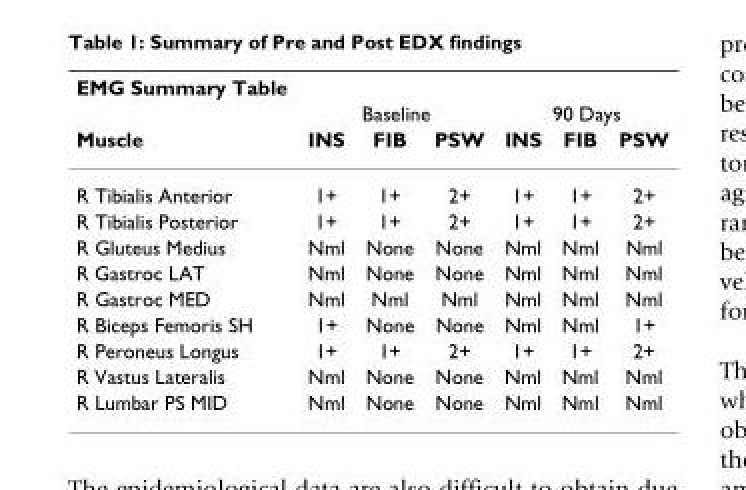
<table><thead><tr><td rowspan="3">EMG Summary Table Muscle</td><td></td><td></td><td></td><td></td><td></td><td></td></tr><tr><td colspan="3">Baseline</td><td colspan="3">90 Days</td></tr><tr><td>INS</td><td>FIB</td><td>PSW</td><td>INS</td><td>FIB</td><td>PSW</td></tr></thead><tbody><tr><td>R Tibialis Anterior</td><td>1+</td><td>1+</td><td>2+</td><td>1+</td><td>1+</td><td>2+</td></tr><tr><td>R Tibialis Posterior</td><td>1+</td><td>1+</td><td>2+</td><td>1+</td><td>1+</td><td>2+</td></tr><tr><td>R Gluteus Medius</td><td>Nml</td><td>None</td><td>None</td><td>Nml</td><td>Nml</td><td>Nml</td></tr><tr><td>R Gastroc LAT</td><td>Nml</td><td>None</td><td>None</td><td>Nml</td><td>Nml</td><td>Nml</td></tr><tr><td>R Gastroc MED</td><td>Nml</td><td>Nml</td><td>Nml</td><td>Nml</td><td>Nml</td><td>Nml</td></tr><tr><td>R Biceps Femoris SH</td><td>1+</td><td>None</td><td>None</td><td>Nml</td><td>Nml</td><td>1+</td></tr><tr><td>R Peroneus Longus</td><td>1+</td><td>1+</td><td>2+</td><td>1+</td><td>1+</td><td>2+</td></tr><tr><td>R Vastus Lateralis</td><td>Nml</td><td>None</td><td>None</td><td>Nml</td><td>Nml</td><td>Nml</td></tr><tr><td>R Lumbar PS MID</td><td>Nml</td><td>None</td><td>None</td><td>Nml</td><td>Nml</td><td>Nml</td></tr></tbody></table>